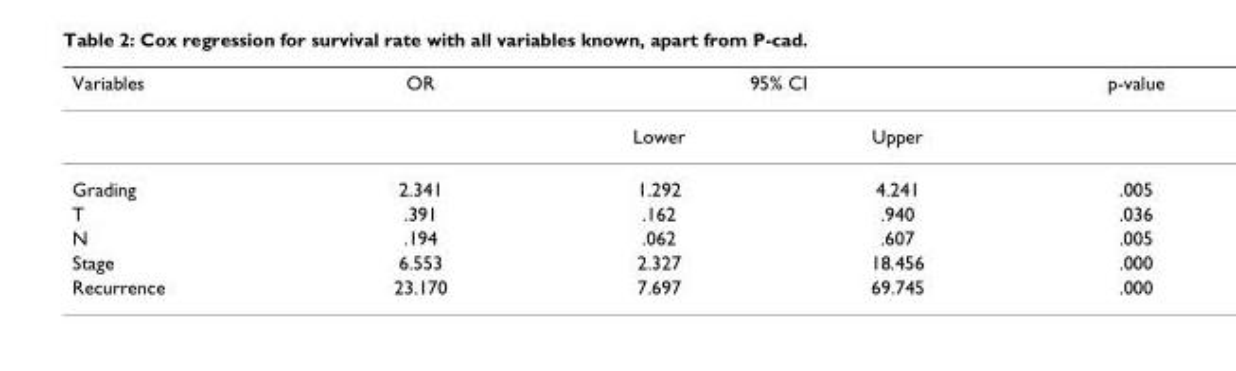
<table><thead><tr><td rowspan="2">Variables</td><td rowspan="2">OR</td><td colspan="2">95% CI</td><td rowspan="2">p-value</td></tr><tr><td>Lower</td><td>Upper</td></tr></thead><tbody><tr><td>Grading</td><td>2.341</td><td>1.292</td><td>4.241</td><td>.005</td></tr><tr><td>T</td><td>.391</td><td>.162</td><td>.940</td><td>.036</td></tr><tr><td>N</td><td>.194</td><td>.062</td><td>.607</td><td>.005</td></tr><tr><td>Stage</td><td>6.553</td><td>2.327</td><td>18.456</td><td>.000</td></tr><tr><td>Recurrence</td><td>23.170</td><td>7.697</td><td>69.745</td><td>.000</td></tr></tbody></table>